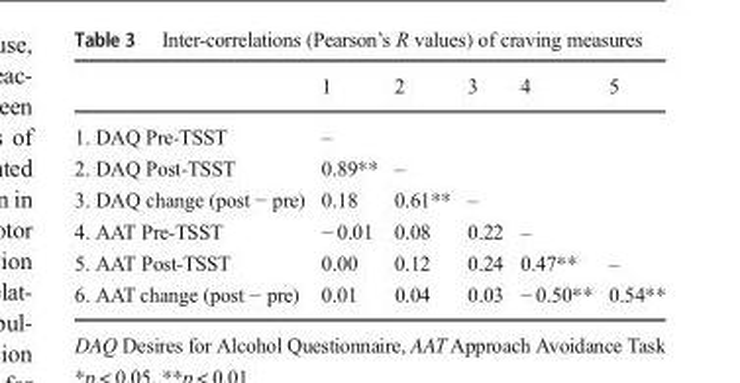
<table><thead><tr><td></td><td>1</td><td>2</td><td>3</td><td>4</td><td>5</td></tr></thead><tbody><tr><td>1. DAQ Pre-TSST</td><td>–</td><td></td><td></td><td></td><td></td></tr><tr><td>2. DAQ Post-TSST</td><td>0.89**</td><td>–</td><td></td><td></td><td></td></tr><tr><td>3. DAQ change (post − pre)</td><td>0.18</td><td>0.61**</td><td>–</td><td></td><td></td></tr><tr><td>4. AAT Pre-TSST</td><td>− 0.01</td><td>0.08</td><td>0.22</td><td>–</td><td></td></tr><tr><td>5. AAT Post-TSST</td><td>0.00</td><td>0.12</td><td>0.24</td><td>0.47**</td><td>–</td></tr><tr><td>6. AAT change (post − pre)</td><td>0.01</td><td>0.04</td><td>0.03</td><td>− 0.50**</td><td>0.54**</td></tr></tbody></table>